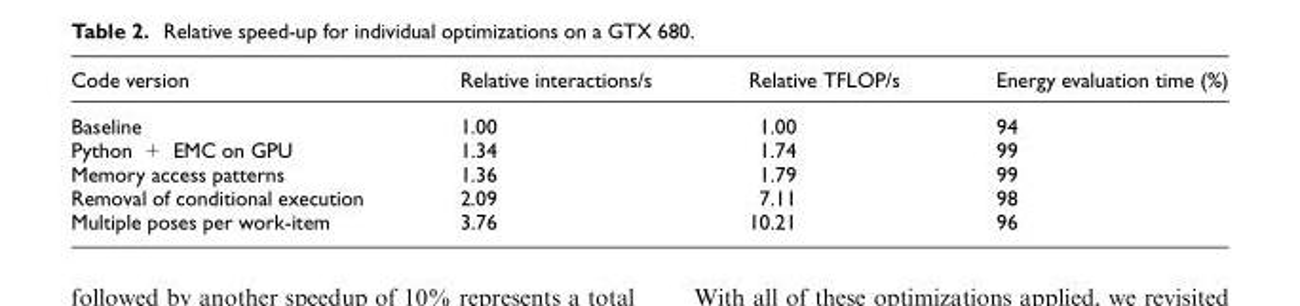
<table><thead><tr><td>Code version</td><td>Relative interactions/s</td><td>Relative TFLOP/s</td><td>Energy evaluation time (%)</td></tr></thead><tbody><tr><td>Baseline</td><td>1.00</td><td>1.00</td><td>94</td></tr><tr><td>Python + EMC on GPU</td><td>1.34</td><td>1.74</td><td>99</td></tr><tr><td>Memory access patterns</td><td>1.36</td><td>1.79</td><td>99</td></tr><tr><td>Removal of conditional execution</td><td>2.09</td><td>7.11</td><td>98</td></tr><tr><td>Multiple poses per work-item</td><td>3.76</td><td>10.21</td><td>96</td></tr></tbody></table>